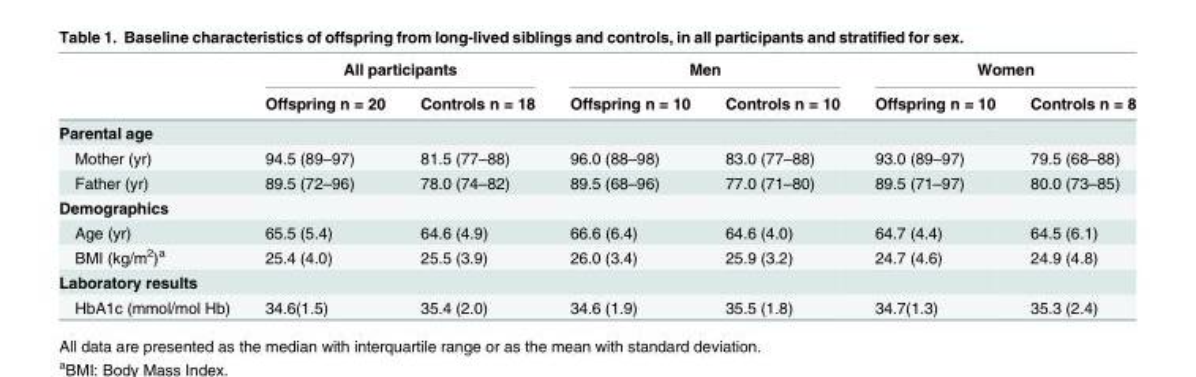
<table><thead><tr><td rowspan="2"></td><td colspan="2">All participants</td><td colspan="2">Men</td><td colspan="2">Women</td></tr><tr><td>Offspring n = 20</td><td>Controls n = 18</td><td>Offspring n = 10</td><td>Controls n = 10</td><td>Offspring n = 10</td><td>Controls n = 8</td></tr></thead><tbody><tr><td colspan="7">Parental age</td></tr><tr><td>Mother (yr)</td><td>94.5 (89–97)</td><td>81.5 (77–88)</td><td>96.0 (88–98)</td><td>83.0 (77–88)</td><td>93.0 (89–97)</td><td>79.5 (68–88)</td></tr><tr><td>Father (yr)</td><td>89.5 (72–96)</td><td>78.0 (74–82)</td><td>89.5 (68–96)</td><td>77.0 (71–80)</td><td>89.5 (71–97)</td><td>80.0 (73–85)</td></tr><tr><td colspan="7">Demographics</td></tr><tr><td>Age (yr)</td><td>65.5 (5.4)</td><td>64.6 (4.9)</td><td>66.6 (6.4)</td><td>64.6 (4.0)</td><td>64.7 (4.4)</td><td>64.5 (6.1)</td></tr><tr><td>BMI (kg/m<sup>2</sup>)<sup>a</sup></td><td>25.4 (4.0)</td><td>25.5 (3.9)</td><td>26.0 (3.4)</td><td>25.9 (3.2)</td><td>24.7 (4.6)</td><td>24.9 (4.8)</td></tr><tr><td colspan="7">Laboratory results</td></tr><tr><td>HbA1c (mmol/mol Hb)</td><td>34.6(1.5)</td><td>35.4 (2.0)</td><td>34.6 (1.9)</td><td>35.5 (1.8)</td><td>34.7(1.3)</td><td>35.3 (2.4)</td></tr></tbody></table>